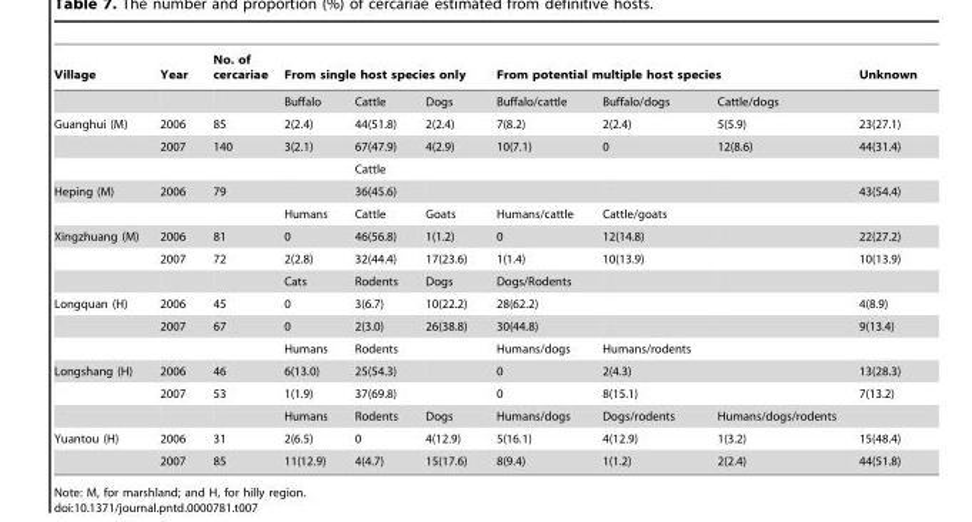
<table><thead><tr><td rowspan="2">Village</td><td rowspan="2">Year</td><td rowspan="2">No. of cercariae</td><td colspan="3">From single host species only</td><td colspan="3">From potential multiple host species</td><td rowspan="2">Unknown</td></tr><tr><td>Buffalo</td><td>Cattle</td><td>Dogs</td><td>Buffalo/cattle</td><td>Buffalo/dogs</td><td>Cattle/dogs</td></tr></thead><tbody><tr><td rowspan="3">Guanghui (M)</td><td>2006</td><td>85</td><td>2(2.4)</td><td>44(51.8)</td><td>2(2.4)</td><td>7(8.2)</td><td>2(2.4)</td><td>5(5.9)</td><td>23(27.1)</td></tr><tr><td>2007</td><td>140</td><td>3(2.1)</td><td>67(47.9)</td><td>4(2.9)</td><td>10(7.1)</td><td>0</td><td>12(8.6)</td><td>44(31.4)</td></tr><tr><td></td><td></td><td></td><td>Cattle</td><td></td><td></td><td></td><td></td><td></td></tr><tr><td rowspan="2">Heping (M)</td><td>2006</td><td>79</td><td></td><td>36(45.6)</td><td></td><td></td><td></td><td></td><td>43(54.4)</td></tr><tr><td></td><td></td><td>Humans</td><td>Cattle</td><td>Goats</td><td>Humans/cattle</td><td>Cattle/goats</td><td></td><td></td></tr><tr><td rowspan="3">Xingzhuang (M)</td><td>2006</td><td>81</td><td>0</td><td>46(56.8)</td><td>1(1.2)</td><td>0</td><td>12(14.8)</td><td></td><td>22(27.2)</td></tr><tr><td>2007</td><td>72</td><td>2(2.8)</td><td>32(44.4)</td><td>17(23.6)</td><td>1(1.4)</td><td>10(13.9)</td><td></td><td>10(13.9)</td></tr><tr><td></td><td></td><td>Cats</td><td>Rodents</td><td>Dogs</td><td>Dogs/Rodents</td><td></td><td></td><td></td></tr><tr><td rowspan="3">Longquan (H)</td><td>2006</td><td>45</td><td>0</td><td>3(6.7)</td><td>10(22.2)</td><td>28(62.2)</td><td></td><td></td><td>4(8.9)</td></tr><tr><td>2007</td><td>67</td><td>0</td><td>2(3.0)</td><td>26(38.8)</td><td>30(44.8)</td><td></td><td></td><td>9(13.4)</td></tr><tr><td></td><td></td><td>Humans</td><td>Rodents</td><td></td><td>Humans/dogs</td><td>Humans/rodents</td><td></td><td></td></tr><tr><td rowspan="3">Longshang (H)</td><td>2006</td><td>46</td><td>6(13.0)</td><td>25(54.3)</td><td></td><td>0</td><td>2(4.3)</td><td></td><td>13(28.3)</td></tr><tr><td>2007</td><td>53</td><td>1(1.9)</td><td>37(69.8)</td><td></td><td>0</td><td>8(15.1)</td><td></td><td>7(13.2)</td></tr><tr><td></td><td></td><td>Humans</td><td>Rodents</td><td>Dogs</td><td>Humans/dogs</td><td>Dogs/rodents</td><td>Humans/dogs/rodents</td><td></td></tr><tr><td rowspan="2">Yuantou (H)</td><td>2006</td><td>31</td><td>2(6.5)</td><td>0</td><td>4(12.9)</td><td>5(16.1)</td><td>4(12.9)</td><td>1(3.2)</td><td>15(48.4)</td></tr><tr><td>2007</td><td>85</td><td>11(12.9)</td><td>4(4.7)</td><td>15(17.6)</td><td>8(9.4)</td><td>1(1.2)</td><td>2(2.4)</td><td>44(51.8)</td></tr></tbody></table>